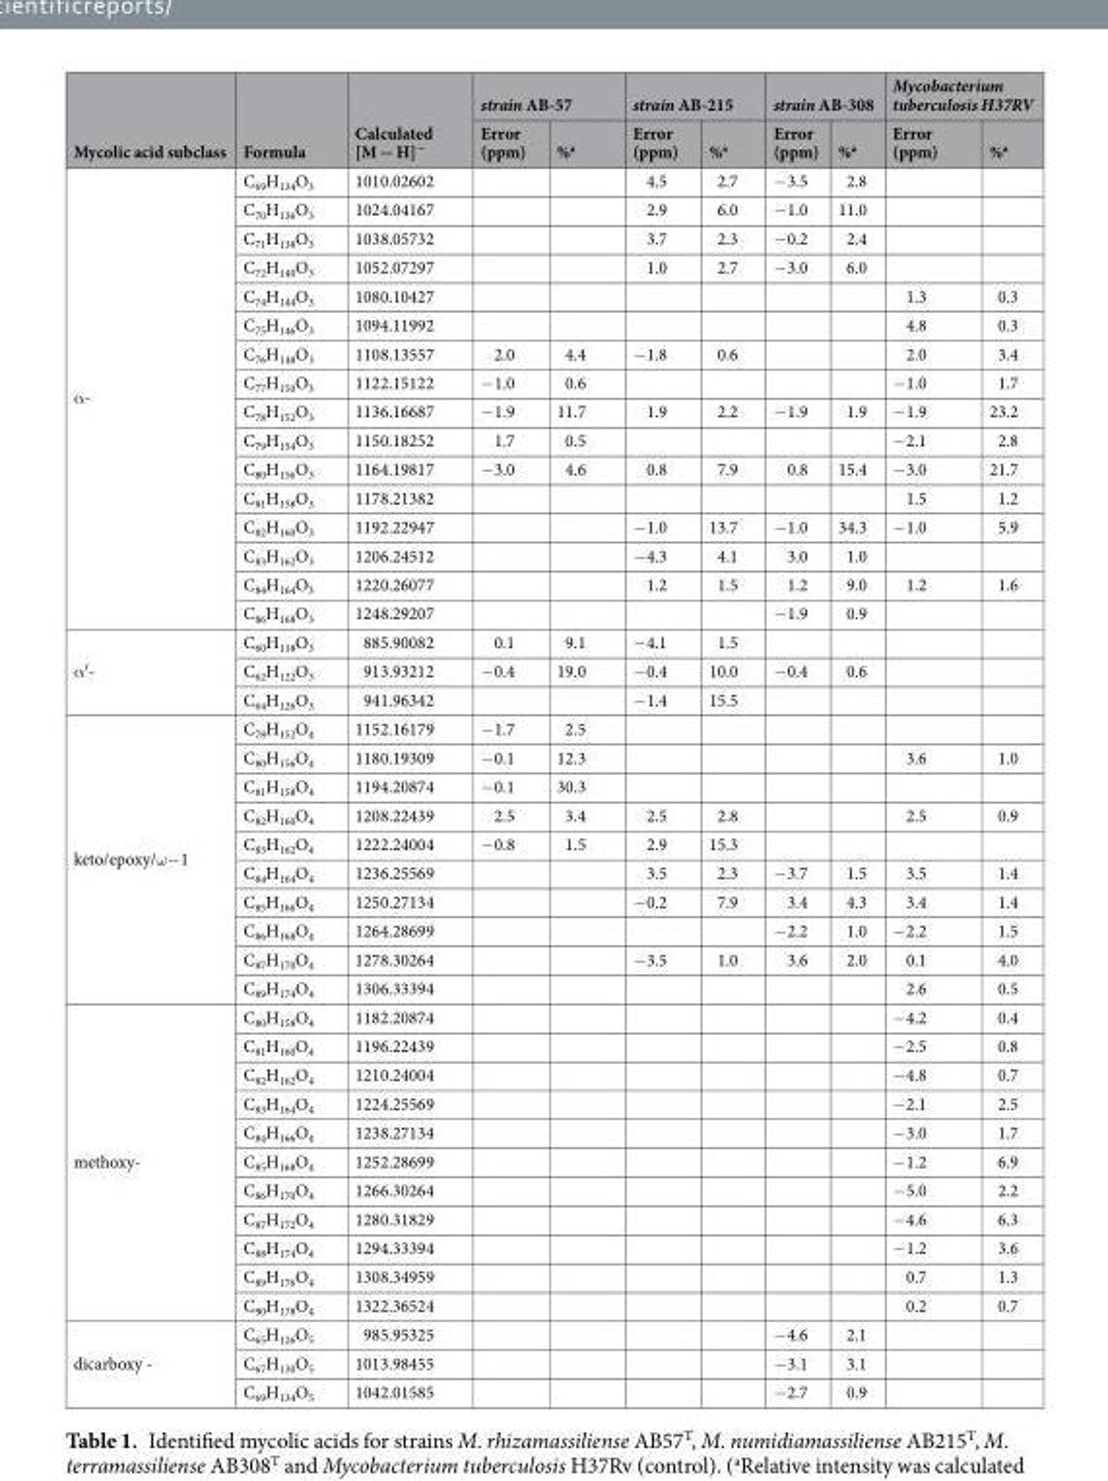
<table><thead><tr><td rowspan="2">Mycolic acid subclass</td><td rowspan="2">Formula</td><td rowspan="2">Calculated [M − H]<sup>−</sup></td><td colspan="2">strain AB-57</td><td colspan="2">strain AB-215</td><td colspan="2">strain AB-308</td><td colspan="2">Mycobacterium tuberculosis H37RV</td></tr><tr><td>Error (ppm)</td><td>%<sup>a</sup></td><td>Error (ppm)</td><td>%<sup>a</sup></td><td>Error (ppm)</td><td>%<sup>a</sup></td><td>Error (ppm)</td><td>%<sup>a</sup></td></tr></thead><tbody><tr><td rowspan="16">α-</td><td>C<sub>69</sub>H<sub>134</sub>O<sub>3</sub></td><td>1010.02602</td><td></td><td></td><td>4.5</td><td>2.7</td><td>−3.5</td><td>2.8</td><td></td><td></td></tr><tr><td>C<sub>70</sub>H<sub>136</sub>O<sub>3</sub></td><td>1024.04167</td><td></td><td></td><td>2.9</td><td>6.0</td><td>−1.0</td><td>11.0</td><td></td><td></td></tr><tr><td>C<sub>71</sub>H<sub>138</sub>O<sub>3</sub></td><td>1038.05732</td><td></td><td></td><td>3.7</td><td>2.3</td><td>−0.2</td><td>2.4</td><td></td><td></td></tr><tr><td>C<sub>72</sub>H<sub>140</sub>O<sub>3</sub></td><td>1052.07297</td><td></td><td></td><td>1.0</td><td>2.7</td><td>−3.0</td><td>6.0</td><td></td><td></td></tr><tr><td>C<sub>74</sub>H<sub>144</sub>O<sub>3</sub></td><td>1080.10427</td><td></td><td></td><td></td><td></td><td></td><td></td><td>1.3</td><td>0.3</td></tr><tr><td>C<sub>75</sub>H<sub>146</sub>O<sub>3</sub></td><td>1094.11992</td><td></td><td></td><td></td><td></td><td></td><td></td><td>4.8</td><td>0.3</td></tr><tr><td>C<sub>76</sub>H<sub>148</sub>O<sub>3</sub></td><td>1108.13557</td><td>2.0</td><td>4.4</td><td>−1.8</td><td>0.6</td><td></td><td></td><td>2.0</td><td>3.4</td></tr><tr><td>C<sub>77</sub>H<sub>150</sub>O<sub>3</sub></td><td>1122.15122</td><td>−1.0</td><td>0.6</td><td></td><td></td><td></td><td></td><td>−1.0</td><td>1.7</td></tr><tr><td>C<sub>78</sub>H<sub>152</sub>O<sub>3</sub></td><td>1136.16687</td><td>−1.9</td><td>11.7</td><td>1.9</td><td>2.2</td><td>−1.9</td><td>1.9</td><td>−1.9</td><td>23.2</td></tr><tr><td>C<sub>79</sub>H<sub>154</sub>O<sub>3</sub></td><td>1150.18252</td><td>1.7</td><td>0.5</td><td></td><td></td><td></td><td></td><td>−2.1</td><td>2.8</td></tr><tr><td>C<sub>80</sub>H<sub>156</sub>O<sub>3</sub></td><td>1164.19817</td><td>−3.0</td><td>4.6</td><td>0.8</td><td>7.9</td><td>0.8</td><td>15.4</td><td>−3.0</td><td>21.7</td></tr><tr><td>C<sub>81</sub>H<sub>158</sub>O<sub>3</sub></td><td>1178.21382</td><td></td><td></td><td></td><td></td><td></td><td></td><td>1.5</td><td>1.2</td></tr><tr><td>C<sub>82</sub>H<sub>160</sub>O<sub>3</sub></td><td>1192.22947</td><td></td><td></td><td>−1.0</td><td>13.7</td><td>−1.0</td><td>34.3</td><td>−1.0</td><td>5.9</td></tr><tr><td>C<sub>83</sub>H<sub>162</sub>O<sub>3</sub></td><td>1206.24512</td><td></td><td></td><td>−4.3</td><td>4.1</td><td>3.0</td><td>1.0</td><td></td><td></td></tr><tr><td>C<sub>84</sub>H<sub>164</sub>O<sub>3</sub></td><td>1220.26077</td><td></td><td></td><td>1.2</td><td>1.5</td><td>1.2</td><td>9.0</td><td>1.2</td><td>1.6</td></tr><tr><td>C<sub>86</sub>H<sub>168</sub>O<sub>3</sub></td><td>1248.29207</td><td></td><td></td><td></td><td></td><td>−1.9</td><td>0.9</td><td></td><td></td></tr><tr><td rowspan="3">α′-</td><td>C<sub>60</sub>H<sub>118</sub>O<sub>3</sub></td><td>885.90082</td><td>0.1</td><td>9.1</td><td>−4.1</td><td>1.5</td><td></td><td></td><td></td><td></td></tr><tr><td>C<sub>62</sub>H<sub>122</sub>O<sub>3</sub></td><td>913.93212</td><td>−0.4</td><td>19.0</td><td>−0.4</td><td>10.0</td><td>−0.4</td><td>0.6</td><td></td><td></td></tr><tr><td>C<sub>64</sub>H<sub>126</sub>O<sub>3</sub></td><td>941.96342</td><td></td><td></td><td>−1.4</td><td>15.5</td><td></td><td></td><td></td><td></td></tr><tr><td rowspan="10">keto/epoxy/ω−1</td><td>C<sub>78</sub>H<sub>152</sub>O<sub>4</sub></td><td>1152.16179</td><td>−1.7</td><td>2.5</td><td></td><td></td><td></td><td></td><td></td><td></td></tr><tr><td>C<sub>80</sub>H<sub>156</sub>O<sub>4</sub></td><td>1180.19309</td><td>−0.1</td><td>12.3</td><td></td><td></td><td></td><td></td><td>3.6</td><td>1.0</td></tr><tr><td>C<sub>81</sub>H<sub>158</sub>O<sub>4</sub></td><td>1194.20874</td><td>−0.1</td><td>30.3</td><td></td><td></td><td></td><td></td><td></td><td></td></tr><tr><td>C<sub>82</sub>H<sub>160</sub>O<sub>4</sub></td><td>1208.22439</td><td>2.5</td><td>3.4</td><td>2.5</td><td>2.8</td><td></td><td></td><td>2.5</td><td>0.9</td></tr><tr><td>C<sub>83</sub>H<sub>162</sub>O<sub>4</sub></td><td>1222.24004</td><td>−0.8</td><td>1.5</td><td>2.9</td><td>15.3</td><td></td><td></td><td></td><td></td></tr><tr><td>C<sub>84</sub>H<sub>164</sub>O<sub>4</sub></td><td>1236.25569</td><td></td><td></td><td>3.5</td><td>2.3</td><td>−3.7</td><td>1.5</td><td>3.5</td><td>1.4</td></tr><tr><td>C<sub>85</sub>H<sub>166</sub>O<sub>4</sub></td><td>1250.27134</td><td></td><td></td><td>−0.2</td><td>7.9</td><td>3.4</td><td>4.3</td><td>3.4</td><td>1.4</td></tr><tr><td>C<sub>86</sub>H<sub>168</sub>O<sub>4</sub></td><td>1264.28699</td><td></td><td></td><td></td><td></td><td>−2.2</td><td>1.0</td><td>−2.2</td><td>1.5</td></tr><tr><td>C<sub>87</sub>H<sub>170</sub>O<sub>4</sub></td><td>1278.30264</td><td></td><td></td><td>−3.5</td><td>1.0</td><td>3.6</td><td>2.0</td><td>0.1</td><td>4.0</td></tr><tr><td>C<sub>89</sub>H<sub>174</sub>O<sub>4</sub></td><td>1306.33394</td><td></td><td></td><td></td><td></td><td></td><td></td><td>2.6</td><td>0.5</td></tr><tr><td rowspan="11">methoxy-</td><td>C<sub>80</sub>H<sub>158</sub>O<sub>4</sub></td><td>1182.20874</td><td></td><td></td><td></td><td></td><td></td><td></td><td>−4.2</td><td>0.4</td></tr><tr><td>C<sub>81</sub>H<sub>160</sub>O<sub>4</sub></td><td>1196.22439</td><td></td><td></td><td></td><td></td><td></td><td></td><td>−2.5</td><td>0.8</td></tr><tr><td>C<sub>82</sub>H<sub>162</sub>O<sub>4</sub></td><td>1210.24004</td><td></td><td></td><td></td><td></td><td></td><td></td><td>−4.8</td><td>0.7</td></tr><tr><td>C<sub>83</sub>H<sub>164</sub>O<sub>4</sub></td><td>1224.25569</td><td></td><td></td><td></td><td></td><td></td><td></td><td>−2.1</td><td>2.5</td></tr><tr><td>C<sub>84</sub>H<sub>166</sub>O<sub>4</sub></td><td>1238.27134</td><td></td><td></td><td></td><td></td><td></td><td></td><td>−3.0</td><td>1.7</td></tr><tr><td>C<sub>85</sub>H<sub>168</sub>O<sub>4</sub></td><td>1252.28699</td><td></td><td></td><td></td><td></td><td></td><td></td><td>−1.2</td><td>6.9</td></tr><tr><td>C<sub>86</sub>H<sub>170</sub>O<sub>4</sub></td><td>1266.30264</td><td></td><td></td><td></td><td></td><td></td><td></td><td>−5.0</td><td>2.2</td></tr><tr><td>C<sub>87</sub>H<sub>172</sub>O<sub>4</sub></td><td>1280.31829</td><td></td><td></td><td></td><td></td><td></td><td></td><td>−4.6</td><td>6.3</td></tr><tr><td>C<sub>88</sub>H<sub>174</sub>O<sub>4</sub></td><td>1294.33394</td><td></td><td></td><td></td><td></td><td></td><td></td><td>−1.2</td><td>3.6</td></tr><tr><td>C<sub>89</sub>H<sub>176</sub>O<sub>4</sub></td><td>1308.34959</td><td></td><td></td><td></td><td></td><td></td><td></td><td>0.7</td><td>1.3</td></tr><tr><td>C<sub>90</sub>H<sub>178</sub>O<sub>4</sub></td><td>1322.36524</td><td></td><td></td><td></td><td></td><td></td><td></td><td>0.2</td><td>0.7</td></tr><tr><td rowspan="3">dicarboxy -</td><td>C<sub>65</sub>H<sub>126</sub>O<sub>5</sub></td><td>985.95325</td><td></td><td></td><td></td><td></td><td>−4.6</td><td>2.1</td><td></td><td></td></tr><tr><td>C<sub>67</sub>H<sub>130</sub>O<sub>5</sub></td><td>1013.98455</td><td></td><td></td><td></td><td></td><td>−3.1</td><td>3.1</td><td></td><td></td></tr><tr><td>C<sub>69</sub>H<sub>134</sub>O<sub>5</sub></td><td>1042.01585</td><td></td><td></td><td></td><td></td><td>−2.7</td><td>0.9</td><td></td><td></td></tr></tbody></table>